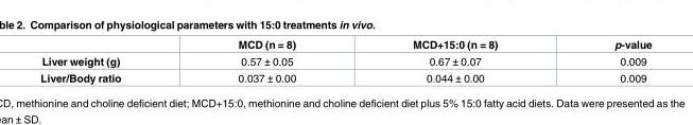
<table><thead><tr><td></td><td>MCD (n = 8)</td><td>MCD+15:0 (n = 8)</td><td>p-value</td></tr></thead><tbody><tr><td>Liver weight (g)</td><td>0.57 ± 0.05</td><td>0.67 ± 0.07</td><td>0.009</td></tr><tr><td>Liver/Body ratio</td><td>0.037 ± 0.00</td><td>0.044 ± 0.00</td><td>0.009</td></tr></tbody></table>